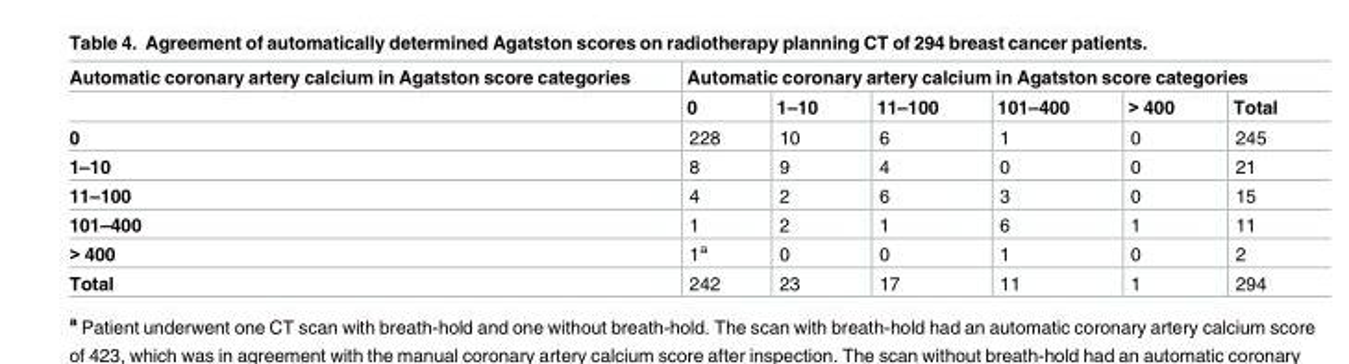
<table><thead><tr><td rowspan="2">Automatic coronary artery calcium in Agatston score categories</td><td colspan="6">Automatic coronary artery calcium in Agatston score categories</td></tr><tr><td>0</td><td>1–10</td><td>11–100</td><td>101–400</td><td>&gt; 400</td><td>Total</td></tr></thead><tbody><tr><td>0</td><td>228</td><td>10</td><td>6</td><td>1</td><td>0</td><td>245</td></tr><tr><td>1–10</td><td>8</td><td>9</td><td>4</td><td>0</td><td>0</td><td>21</td></tr><tr><td>11–100</td><td>4</td><td>2</td><td>6</td><td>3</td><td>0</td><td>15</td></tr><tr><td>101–400</td><td>1</td><td>2</td><td>1</td><td>6</td><td>1</td><td>11</td></tr><tr><td>&gt; 400</td><td>1<sup>a</sup></td><td>0</td><td>0</td><td>1</td><td>0</td><td>2</td></tr><tr><td>Total</td><td>242</td><td>23</td><td>17</td><td>11</td><td>1</td><td>294</td></tr></tbody></table>